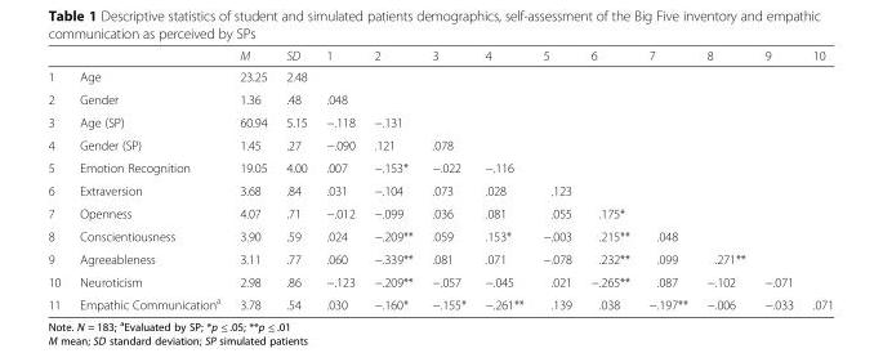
<table><thead><tr><td></td><td></td><td>M</td><td>SD</td><td>1</td><td>2</td><td>3</td><td>4</td><td>5</td><td>6</td><td>7</td><td>8</td><td>9</td><td>10</td></tr></thead><tbody><tr><td>1</td><td>Age</td><td>23.25</td><td>2.48</td><td></td><td></td><td></td><td></td><td></td><td></td><td></td><td></td><td></td><td></td></tr><tr><td>2</td><td>Gender</td><td>1.36</td><td>.48</td><td>.048</td><td></td><td></td><td></td><td></td><td></td><td></td><td></td><td></td><td></td></tr><tr><td>3</td><td>Age (SP)</td><td>60.94</td><td>5.15</td><td>−.118</td><td>−.131</td><td></td><td></td><td></td><td></td><td></td><td></td><td></td><td></td></tr><tr><td>4</td><td>Gender (SP)</td><td>1.45</td><td>.27</td><td>−.090</td><td>.121</td><td>.078</td><td></td><td></td><td></td><td></td><td></td><td></td><td></td></tr><tr><td>5</td><td>Emotion Recognition</td><td>19.05</td><td>4.00</td><td>.007</td><td>−.153*</td><td>−.022</td><td>−.116</td><td></td><td></td><td></td><td></td><td></td><td></td></tr><tr><td>6</td><td>Extraversion</td><td>3.68</td><td>.84</td><td>.031</td><td>−.104</td><td>.073</td><td>.028</td><td>.123</td><td></td><td></td><td></td><td></td><td></td></tr><tr><td>7</td><td>Openness</td><td>4.07</td><td>.71</td><td>−.012</td><td>−.099</td><td>.036</td><td>.081</td><td>.055</td><td>.175*</td><td></td><td></td><td></td><td></td></tr><tr><td>8</td><td>Conscientiousness</td><td>3.90</td><td>.59</td><td>.024</td><td>−.209**</td><td>.059</td><td>.153*</td><td>−.003</td><td>.215**</td><td>.048</td><td></td><td></td><td></td></tr><tr><td>9</td><td>Agreeableness</td><td>3.11</td><td>.77</td><td>.060</td><td>−.339**</td><td>.081</td><td>.071</td><td>−.078</td><td>.232**</td><td>.099</td><td>.271**</td><td></td><td></td></tr><tr><td>10</td><td>Neuroticism</td><td>2.98</td><td>.86</td><td>−.123</td><td>−.209**</td><td>−.057</td><td>−.045</td><td>.021</td><td>−.265**</td><td>.087</td><td>−.102</td><td>−.071</td><td></td></tr><tr><td>11</td><td>Empathic Communication<sup>a</sup></td><td>3.78</td><td>.54</td><td>.030</td><td>−.160*</td><td>−.155*</td><td>−.261**</td><td>.139</td><td>.038</td><td>−.197**</td><td>−.006</td><td>−.033</td><td>.071</td></tr></tbody></table>